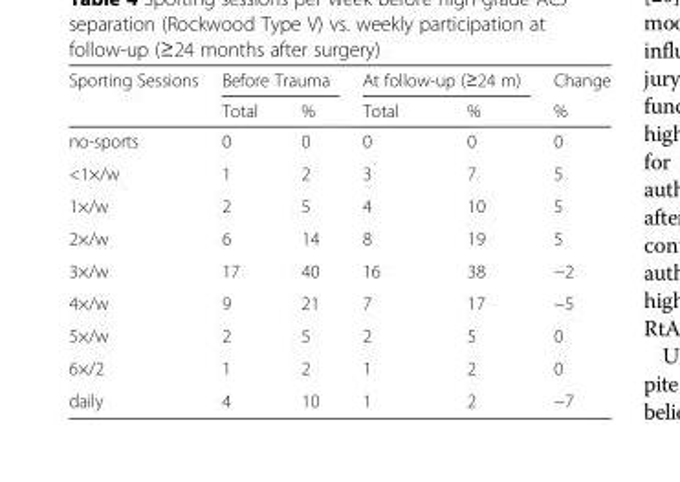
<table><thead><tr><td rowspan="2">Sporting Sessions</td><td colspan="2">Before Trauma</td><td colspan="2">At follow-up (≥24 m)</td><td rowspan="2">Change %</td></tr><tr><td>Total</td><td>%</td><td>Total</td><td>%</td></tr></thead><tbody><tr><td>no-sports</td><td>0</td><td>0</td><td>0</td><td>0</td><td>0</td></tr><tr><td>&lt;1×/w</td><td>1</td><td>2</td><td>3</td><td>7</td><td>5</td></tr><tr><td>1×/w</td><td>2</td><td>5</td><td>4</td><td>10</td><td>5</td></tr><tr><td>2×/w</td><td>6</td><td>14</td><td>8</td><td>19</td><td>5</td></tr><tr><td>3×/w</td><td>17</td><td>40</td><td>16</td><td>38</td><td>−2</td></tr><tr><td>4×/w</td><td>9</td><td>21</td><td>7</td><td>17</td><td>−5</td></tr><tr><td>5×/w</td><td>2</td><td>5</td><td>2</td><td>5</td><td>0</td></tr><tr><td>6×/2</td><td>1</td><td>2</td><td>1</td><td>2</td><td>0</td></tr><tr><td>daily</td><td>4</td><td>10</td><td>1</td><td>2</td><td>−7</td></tr></tbody></table>